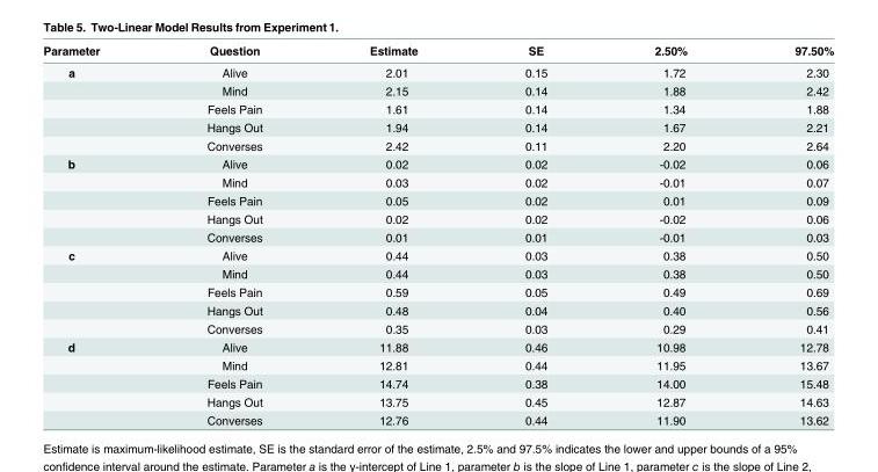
<table><thead><tr><td>Parameter</td><td>Question</td><td>Estimate</td><td>SE</td><td>2.50%</td><td>97.50%</td></tr></thead><tbody><tr><td rowspan="5">a</td><td>Alive</td><td>2.01</td><td>0.15</td><td>1.72</td><td>2.30</td></tr><tr><td>Mind</td><td>2.15</td><td>0.14</td><td>1.88</td><td>2.42</td></tr><tr><td>Feels Pain</td><td>1.61</td><td>0.14</td><td>1.34</td><td>1.88</td></tr><tr><td>Hangs Out</td><td>1.94</td><td>0.14</td><td>1.67</td><td>2.21</td></tr><tr><td>Converses</td><td>2.42</td><td>0.11</td><td>2.20</td><td>2.64</td></tr><tr><td rowspan="5">b</td><td>Alive</td><td>0.02</td><td>0.02</td><td>-0.02</td><td>0.06</td></tr><tr><td>Mind</td><td>0.03</td><td>0.02</td><td>-0.01</td><td>0.07</td></tr><tr><td>Feels Pain</td><td>0.05</td><td>0.02</td><td>0.01</td><td>0.09</td></tr><tr><td>Hangs Out</td><td>0.02</td><td>0.02</td><td>-0.02</td><td>0.06</td></tr><tr><td>Converses</td><td>0.01</td><td>0.01</td><td>-0.01</td><td>0.03</td></tr><tr><td rowspan="5">c</td><td>Alive</td><td>0.44</td><td>0.03</td><td>0.38</td><td>0.50</td></tr><tr><td>Mind</td><td>0.44</td><td>0.03</td><td>0.38</td><td>0.50</td></tr><tr><td>Feels Pain</td><td>0.59</td><td>0.05</td><td>0.49</td><td>0.69</td></tr><tr><td>Hangs Out</td><td>0.48</td><td>0.04</td><td>0.40</td><td>0.56</td></tr><tr><td>Converses</td><td>0.35</td><td>0.03</td><td>0.29</td><td>0.41</td></tr><tr><td rowspan="5">d</td><td>Alive</td><td>11.88</td><td>0.46</td><td>10.98</td><td>12.78</td></tr><tr><td>Mind</td><td>12.81</td><td>0.44</td><td>11.95</td><td>13.67</td></tr><tr><td>Feels Pain</td><td>14.74</td><td>0.38</td><td>14.00</td><td>15.48</td></tr><tr><td>Hangs Out</td><td>13.75</td><td>0.45</td><td>12.87</td><td>14.63</td></tr><tr><td>Converses</td><td>12.76</td><td>0.44</td><td>11.90</td><td>13.62</td></tr></tbody></table>